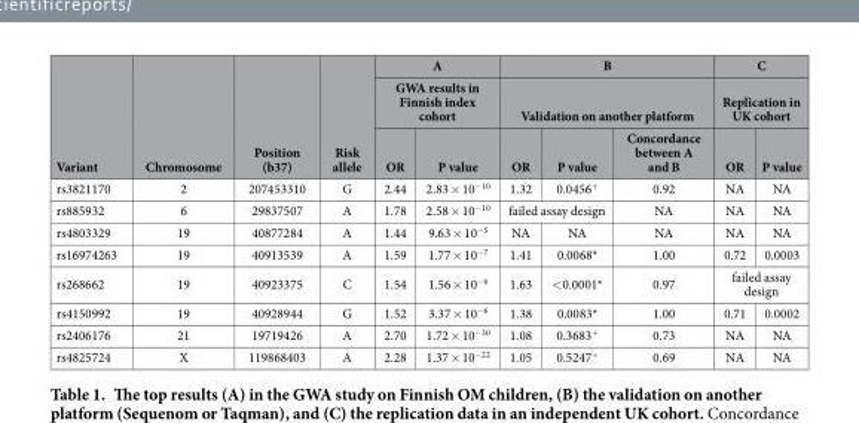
<table><thead><tr><td rowspan="3">Variant</td><td rowspan="3">Chromosome</td><td rowspan="3">Position (b37)</td><td rowspan="3">Risk allele</td><td rowspan="2" colspan="2">A GWA results in Finnish index cohort</td><td rowspan="2" colspan="3">B Validation on another platform</td><td rowspan="2" colspan="2">C Replication in UK cohort</td></tr><tr></tr><tr><td>OR</td><td>P value</td><td>OR</td><td>P value</td><td>Concordance between A and B</td><td>OR</td><td>P value</td></tr></thead><tbody><tr><td>rs3821170</td><td>2</td><td>207453310</td><td>G</td><td>2.44</td><td>2.83 × 10<sup>−10</sup></td><td>1.32</td><td>0.0456<sup>+</sup></td><td>0.92</td><td>NA</td><td>NA</td></tr><tr><td>rs885932</td><td>6</td><td>29837507</td><td>A</td><td>1.78</td><td>2.58 × 10<sup>−10</sup></td><td colspan="2">failed assay design</td><td>NA</td><td>NA</td><td>NA</td></tr><tr><td>rs4803329</td><td>19</td><td>40877284</td><td>A</td><td>1.44</td><td>9.63 × 10<sup>−5</sup></td><td>NA</td><td>NA</td><td>NA</td><td>NA</td><td>NA</td></tr><tr><td>rs16974263</td><td>19</td><td>40913539</td><td>A</td><td>1.59</td><td>1.77 × 10<sup>−7</sup></td><td>1.41</td><td>0.0068*</td><td>1.00</td><td>0.72</td><td>0.0003</td></tr><tr><td>rs268662</td><td>19</td><td>40923375</td><td>C</td><td>1.54</td><td>1.56 × 10<sup>−6</sup></td><td>1.63</td><td>&lt; 0.0001*</td><td>0.97</td><td colspan="2">failed assay design</td></tr><tr><td>rs4150992</td><td>19</td><td>40928944</td><td>G</td><td>1.52</td><td>3.37 × 10<sup>−6</sup></td><td>1.38</td><td>0.0083*</td><td>1.00</td><td>0.71</td><td>0.0002</td></tr><tr><td>rs2406176</td><td>21</td><td>19719426</td><td>A</td><td>2.70</td><td>1.72 × 10<sup>−30</sup></td><td>1.08</td><td>0.3683<sup>+</sup></td><td>0.73</td><td>NA</td><td>NA</td></tr><tr><td>rs4825724</td><td>X</td><td>119868403</td><td>A</td><td>2.28</td><td>1.37 × 10<sup>−22</sup></td><td>1.05</td><td>0.5247<sup>+</sup></td><td>0.69</td><td>NA</td><td>NA</td></tr></tbody></table>